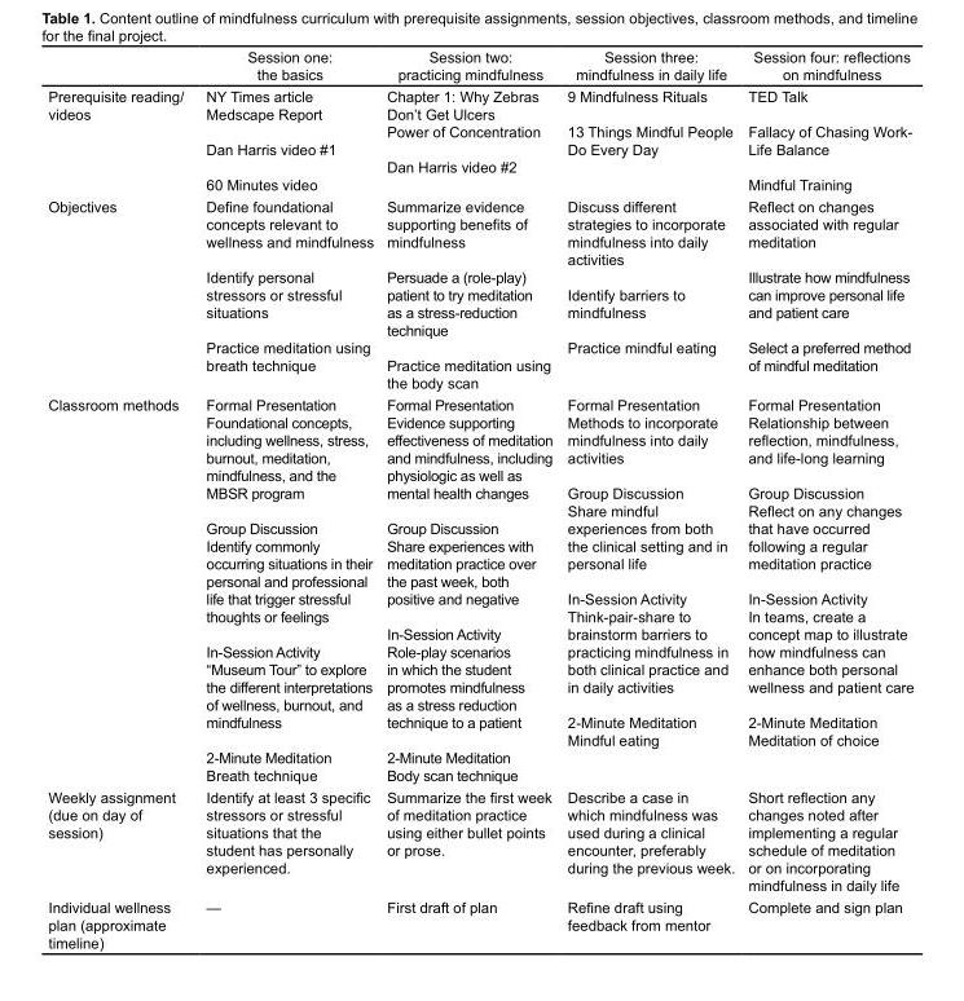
<table><thead><tr><td></td><td>Session one: the basics</td><td>Session two: practicing mindfulness</td><td>Session three: mindfulness in daily life</td><td>Session four: reflections on mindfulness</td></tr></thead><tbody><tr><td>Prerequisite reading/ videos</td><td>NY Times article Medscape Report Dan Harris video #1 60 Minutes video</td><td>Chapter 1: Why Zebras Don’t Get Ulcers Power of Concentration Dan Harris video #2</td><td>9 Mindfulness Rituals 13 Things Mindful People Do Every Day</td><td>TED Talk Fallacy of Chasing Work- Life Balance Mindful Training</td></tr><tr><td>Objectives</td><td>Define foundational concepts relevant to wellness and mindfulness Identify personal stressors or stressful situations Practice meditation using breath technique</td><td>Summarize evidence supporting benefits of mindfulness Persuade a (role-play) patient to try meditation as a stress-reduction technique Practice meditation using the body scan</td><td>Discuss different strategies to incorporate mindfulness into daily activities Identify barriers to mindfulness Practice mindful eating</td><td>Reflect on changes associated with regular meditation Illustrate how mindfulness can improve personal life and patient care Select a preferred method of mindful meditation</td></tr><tr><td>Classroom methods</td><td>Formal Presentation Foundational concepts, including wellness, stress, burnout, meditation, mindfulness, and the MBSR program Group Discussion Identify commonly occurring situations in their personal and professional life that trigger stressful thoughts or feelings In-Session Activity “Museum Tour” to explore the different interpretations of wellness, burnout, and mindfulness 2-Minute Meditation Breath technique</td><td>Formal Presentation Evidence supporting effectiveness of meditation and mindfulness, including physiologic as well as mental health changes Group Discussion Share experiences with meditation practice over the past week, both positive and negative In-Session Activity Role-play scenarios in which the student promotes mindfulness as a stress reduction technique to a patient 2-Minute Meditation Body scan technique</td><td>Formal Presentation Methods to incorporate mindfulness into daily activities Group Discussion Share mindful experiences from both the clinical setting and in personal life In-Session Activity Think-pair-share to brainstorm barriers to practicing mindfulness in both clinical practice and in daily activities 2-Minute Meditation Mindful eating</td><td>Formal Presentation Relationship between reflection, mindfulness, and life-long learning Group Discussion Reflect on any changes that have occurred following a regular meditation practice In-Session Activity In teams, create a concept map to illustrate how mindfulness can enhance both personal wellness and patient care 2-Minute Meditation Meditation of choice</td></tr><tr><td>Weekly assignment (due on day of session)</td><td>Identify at least 3 specific stressors or stressful situations that the student has personally experienced.</td><td>Summarize the first week of meditation practice using either bullet points or prose.</td><td>Describe a case in which mindfulness was used during a clinical encounter, preferably during the previous week.</td><td>Short reflection any changes noted after implementing a regular schedule of meditation or on incorporating mindfulness in daily life</td></tr><tr><td>Individual wellness plan (approximate timeline)</td><td>—</td><td>First draft of plan</td><td>Refine draft using feedback from mentor</td><td>Complete and sign plan</td></tr></tbody></table>